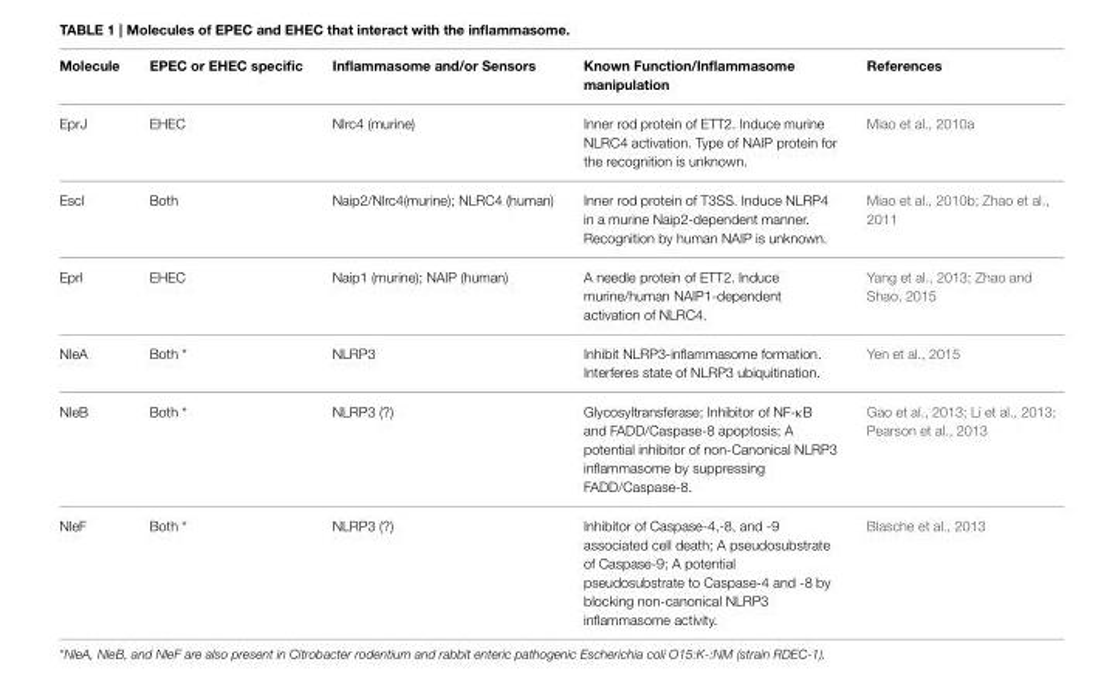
<table><thead><tr><td>Molecule</td><td>EPEC or EHEC specific</td><td>Inflammasome and/or Sensors</td><td>Known Function/Inflammasome manipulation</td><td>References</td></tr></thead><tbody><tr><td>EprJ</td><td>EHEC</td><td>Nlrc4 (murine)</td><td>Inner rod protein of ETT2. Induce murine NLRC4 activation. Type of NAIP protein for the recognition is unknown.</td><td>Miao et al., 2010a</td></tr><tr><td>EscI</td><td>Both</td><td>Naip2/Nlrc4(murine); NLRC4 (human)</td><td>Inner rod protein of T3SS. Induce NLRP4 in a murine Naip2-dependent manner. Recognition by human NAIP is unknown.</td><td>Miao et al., 2010b; Zhao et al., 2011</td></tr><tr><td>EprI</td><td>EHEC</td><td>Naip1 (murine); NAIP (human)</td><td>A needle protein of ETT2. Induce murine/human NAIP1-dependent activation of NLRC4.</td><td>Yang et al., 2013; Zhao and Shao, 2015</td></tr><tr><td>NleA</td><td>Both *</td><td>NLRP3</td><td>Inhibit NLRP3-inflammasome formation. Interferes state of NLRP3 ubiquitination.</td><td>Yen et al., 2015</td></tr><tr><td>NleB</td><td>Both *</td><td>NLRP3 (?)</td><td>Glycosyltransferase; Inhibitor of NF-κB and FADD/Caspase-8 apoptosis; A potential inhibitor of non-Canonical NLRP3 inflammasome by suppressing FADD/Caspase-8.</td><td>Gao et al., 2013; Li et al., 2013; Pearson et al., 2013</td></tr><tr><td>NleF</td><td>Both *</td><td>NLRP3 (?)</td><td>Inhibitor of Caspase-4,-8, and -9 associated cell death; A pseudosubstrate of Caspase-9; A potential pseudosubstrate to Caspase-4 and -8 by blocking non-canonical NLRP3 inflammasome activity.</td><td>Blasche et al., 2013</td></tr></tbody></table>